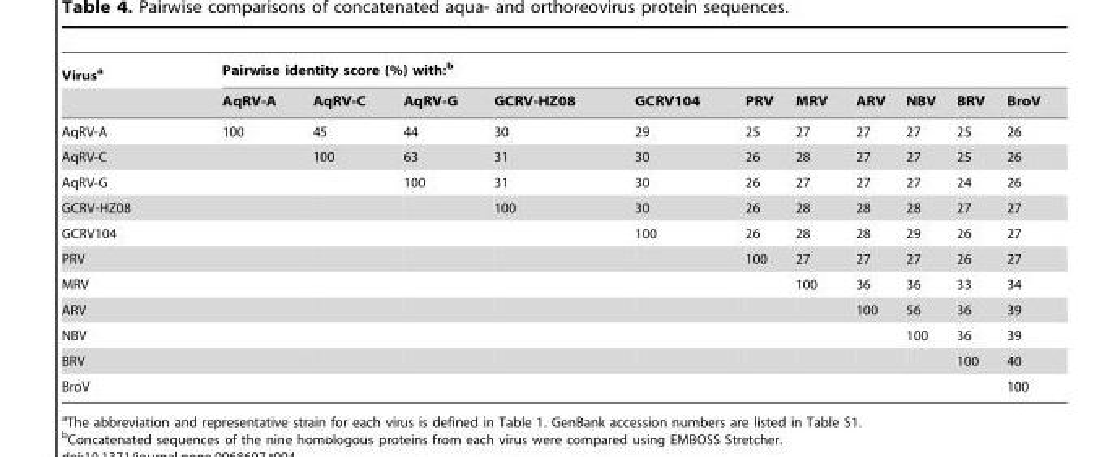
<table><thead><tr><td rowspan="2">Virus<sup>a</sup></td><td colspan="11">Pairwise identity score (%) with:<sup>b</sup></td></tr><tr><td>AqRV-A</td><td>AqRV-C</td><td>AqRV-G</td><td>GCRV-HZ08</td><td>GCRV104</td><td>PRV</td><td>MRV</td><td>ARV</td><td>NBV</td><td>BRV</td><td>BroV</td></tr></thead><tbody><tr><td>AqRV-A</td><td>100</td><td>45</td><td>44</td><td>30</td><td>29</td><td>25</td><td>27</td><td>27</td><td>27</td><td>25</td><td>26</td></tr><tr><td>AqRV-C</td><td></td><td>100</td><td>63</td><td>31</td><td>30</td><td>26</td><td>28</td><td>27</td><td>27</td><td>25</td><td>26</td></tr><tr><td>AqRV-G</td><td></td><td></td><td>100</td><td>31</td><td>30</td><td>26</td><td>27</td><td>27</td><td>27</td><td>24</td><td>26</td></tr><tr><td>GCRV-HZ08</td><td></td><td></td><td></td><td>100</td><td>30</td><td>26</td><td>28</td><td>28</td><td>28</td><td>27</td><td>27</td></tr><tr><td>GCRV104</td><td></td><td></td><td></td><td></td><td>100</td><td>26</td><td>28</td><td>28</td><td>29</td><td>26</td><td>27</td></tr><tr><td>PRV</td><td></td><td></td><td></td><td></td><td></td><td>100</td><td>27</td><td>27</td><td>27</td><td>26</td><td>27</td></tr><tr><td>MRV</td><td></td><td></td><td></td><td></td><td></td><td></td><td>100</td><td>36</td><td>36</td><td>33</td><td>34</td></tr><tr><td>ARV</td><td></td><td></td><td></td><td></td><td></td><td></td><td></td><td>100</td><td>56</td><td>36</td><td>39</td></tr><tr><td>NBV</td><td></td><td></td><td></td><td></td><td></td><td></td><td></td><td></td><td>100</td><td>36</td><td>39</td></tr><tr><td>BRV</td><td></td><td></td><td></td><td></td><td></td><td></td><td></td><td></td><td></td><td>100</td><td>40</td></tr><tr><td>BroV</td><td></td><td></td><td></td><td></td><td></td><td></td><td></td><td></td><td></td><td></td><td>100</td></tr></tbody></table>